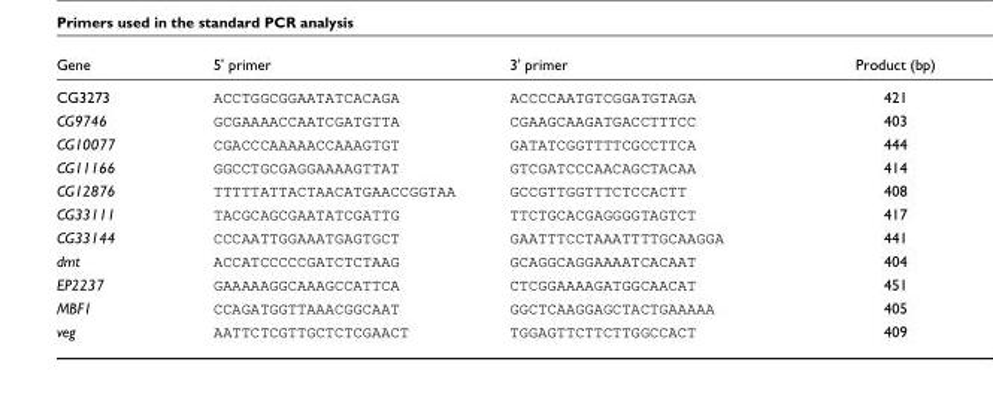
<table><thead><tr><td>Gene</td><td>5&#x27; primer</td><td>3&#x27; primer</td><td>Product (bp)</td></tr></thead><tbody><tr><td>CG3273</td><td>ACCTGGCGGAATATCACAGA</td><td>ACCCCAATGTCGGATGTAGA</td><td>421</td></tr><tr><td>CG9746</td><td>GCGAAAACCAATCGATGTTA</td><td>CGAAGCAAGATGACCTTTCC</td><td>403</td></tr><tr><td>CG10077</td><td>CGACCCAAAAACCAAAGTGT</td><td>GATATCGGTTTTCGCCTTCA</td><td>444</td></tr><tr><td>CG11166</td><td>GGCCTGCGAGGAAAAGTTAT</td><td>GTCGATCCCAACAGCTACAA</td><td>414</td></tr><tr><td>CG12876</td><td>TTTTTATTACTAACATGAACCGGTAA</td><td>GCCGTTGGTTTCTCCACTT</td><td>408</td></tr><tr><td>CG33111</td><td>TACGCAGCGAATATCGATTG</td><td>TTCTGCACGAGGGGTAGTCT</td><td>417</td></tr><tr><td>CG33144</td><td>CCCAATTGGAAATGAGTGCT</td><td>GAATTTCCTAAATTTTGCAAGGA</td><td>441</td></tr><tr><td>dmt</td><td>ACCATCCCCCGATCTCTAAG</td><td>GCAGGCAGGAAAATCACAAT</td><td>404</td></tr><tr><td>EP2237</td><td>GAAAAAGGCAAAGCCATTCA</td><td>CTCGGAAAAGATGGCAACAT</td><td>451</td></tr><tr><td>MBF1</td><td>CCAGATGGTTAAACGGCAAT</td><td>GGCTCAAGGAGCTACTGAAAAA</td><td>405</td></tr><tr><td>veg</td><td>AATTCTCGTTGCTCTCGAACT</td><td>TGGAGTTCTTCTTGGCCACT</td><td>409</td></tr></tbody></table>